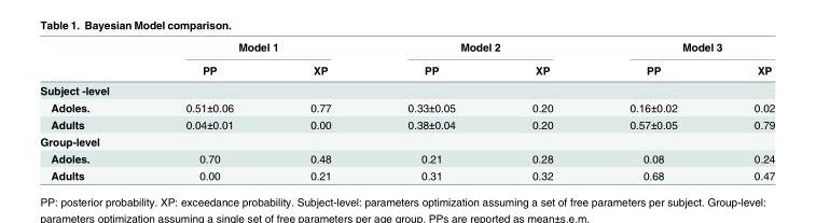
<table><thead><tr><td rowspan="2"></td><td colspan="2">Model 1</td><td colspan="2">Model 2</td><td colspan="2">Model 3</td></tr><tr><td>PP</td><td>XP</td><td>PP</td><td>XP</td><td>PP</td><td>XP</td></tr></thead><tbody><tr><td colspan="7">Subject -level</td></tr><tr><td>Adoles.</td><td>0.51±0.06</td><td>0.77</td><td>0.33±0.05</td><td>0.20</td><td>0.16±0.02</td><td>0.02</td></tr><tr><td>Adults</td><td>0.04±0.01</td><td>0.00</td><td>0.38±0.04</td><td>0.20</td><td>0.57±0.05</td><td>0.79</td></tr><tr><td colspan="7">Group-level</td></tr><tr><td>Adoles.</td><td>0.70</td><td>0.48</td><td>0.21</td><td>0.28</td><td>0.08</td><td>0.24</td></tr><tr><td>Adults</td><td>0.00</td><td>0.21</td><td>0.31</td><td>0.32</td><td>0.68</td><td>0.47</td></tr></tbody></table>